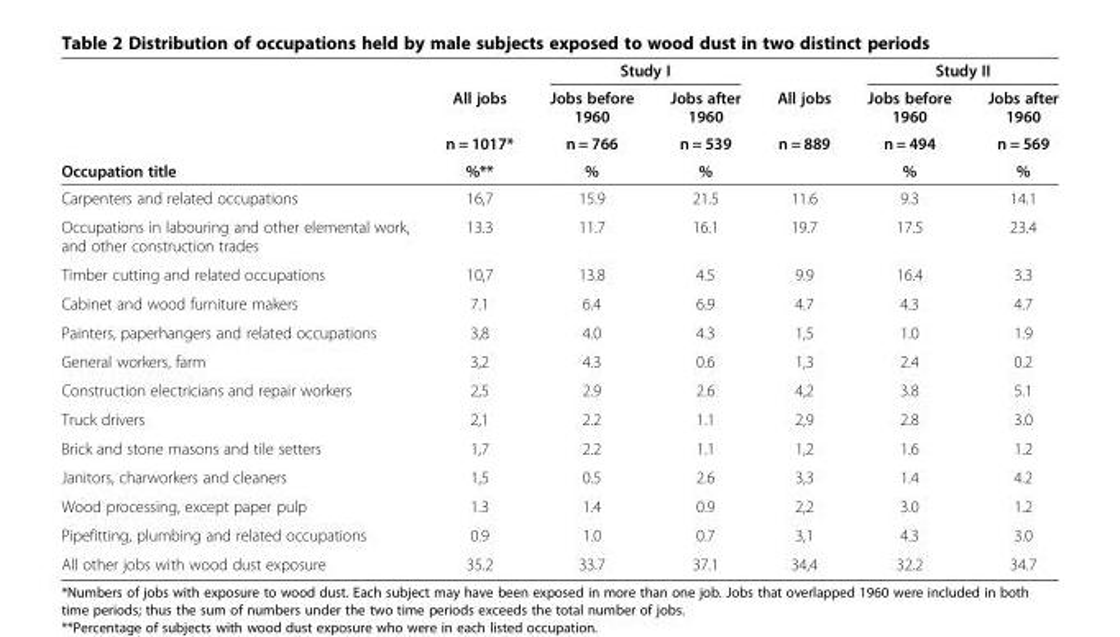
<table><thead><tr><td rowspan="4">Occupation title</td><td rowspan="4">All jobs n = 1017* %**</td><td colspan="2">Study I</td><td rowspan="4">All jobs n = 889</td><td colspan="2">Study II</td></tr><tr><td rowspan="3">Jobs before 1960 n = 766 %</td><td rowspan="3">Jobs after 1960 n = 539 %</td><td rowspan="3">Jobs before 1960 n = 494 %</td><td rowspan="3">Jobs after 1960 n = 569 %</td></tr><tr></tr><tr></tr></thead><tbody><tr><td>Carpenters and related occupations</td><td>16,7</td><td>15.9</td><td>21.5</td><td>11.6</td><td>9.3</td><td>14.1</td></tr><tr><td>Occupations in labouring and other elemental work, and other construction trades</td><td>13.3</td><td>11.7</td><td>16.1</td><td>19.7</td><td>17.5</td><td>23.4</td></tr><tr><td>Timber cutting and related occupations</td><td>10,7</td><td>13.8</td><td>4.5</td><td>9.9</td><td>16.4</td><td>3.3</td></tr><tr><td>Cabinet and wood furniture makers</td><td>7.1</td><td>6.4</td><td>6.9</td><td>4.7</td><td>4.3</td><td>4.7</td></tr><tr><td>Painters, paperhangers and related occupations</td><td>3,8</td><td>4.0</td><td>4.3</td><td>1,5</td><td>1.0</td><td>1.9</td></tr><tr><td>General workers, farm</td><td>3,2</td><td>4.3</td><td>0.6</td><td>1,3</td><td>2.4</td><td>0.2</td></tr><tr><td>Construction electricians and repair workers</td><td>2,5</td><td>2.9</td><td>2.6</td><td>4,2</td><td>3.8</td><td>5.1</td></tr><tr><td>Truck drivers</td><td>2,1</td><td>2.2</td><td>1.1</td><td>2,9</td><td>2.8</td><td>3.0</td></tr><tr><td>Brick and stone masons and tile setters</td><td>1,7</td><td>2.2</td><td>1.1</td><td>1,2</td><td>1.6</td><td>1.2</td></tr><tr><td>Janitors, charworkers and cleaners</td><td>1,5</td><td>0.5</td><td>2.6</td><td>3,3</td><td>1.4</td><td>4.2</td></tr><tr><td>Wood processing, except paper pulp</td><td>1.3</td><td>1.4</td><td>0.9</td><td>2,2</td><td>3.0</td><td>1.2</td></tr><tr><td>Pipefitting, plumbing and related occupations</td><td>0.9</td><td>1.0</td><td>0.7</td><td>3,1</td><td>4.3</td><td>3.0</td></tr><tr><td>All other jobs with wood dust exposure</td><td>35.2</td><td>33.7</td><td>37.1</td><td>34,4</td><td>32.2</td><td>34.7</td></tr></tbody></table>